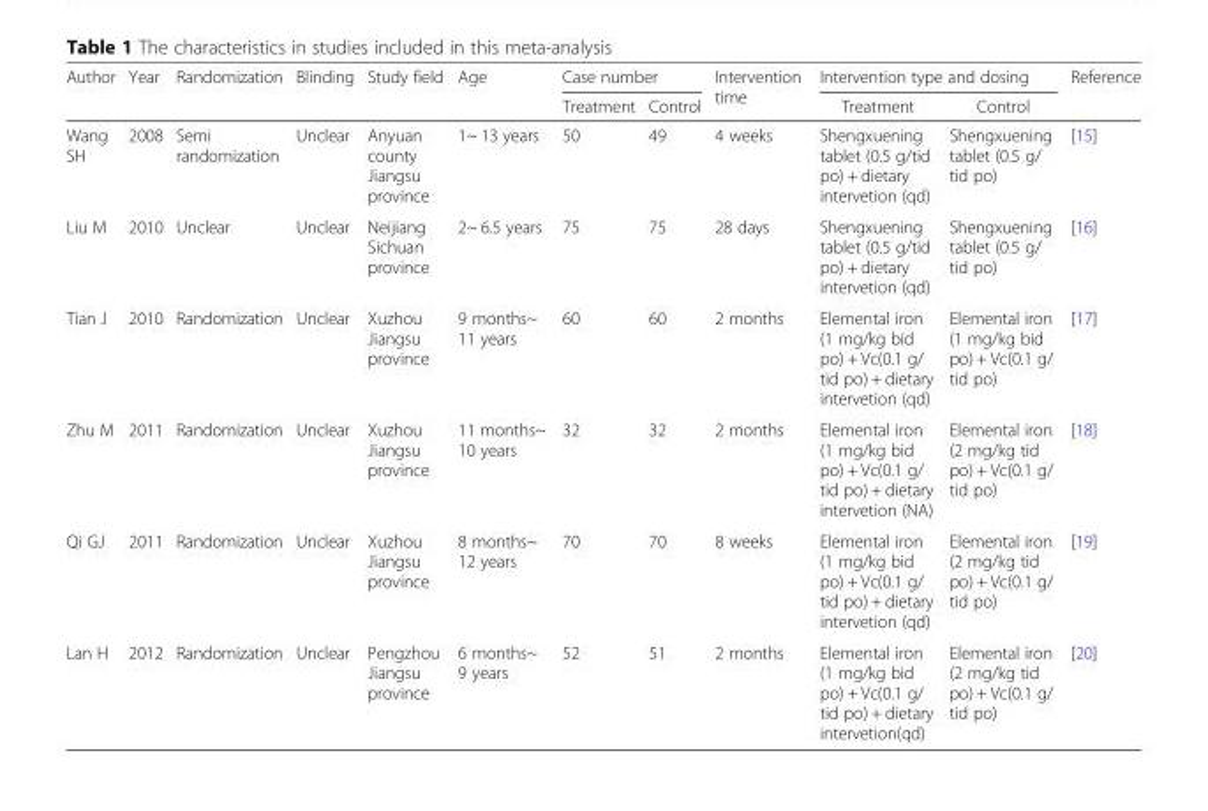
<table><thead><tr><td rowspan="2">Author</td><td rowspan="2">Year</td><td rowspan="2">Randomization</td><td rowspan="2">Blinding</td><td rowspan="2">Study field</td><td rowspan="2">Age</td><td colspan="2">Case number</td><td rowspan="2">Intervention time</td><td colspan="2">Intervention type and dosing</td><td rowspan="2">Reference</td></tr><tr><td>Treatment</td><td>Control</td><td>Treatment</td><td>Control</td></tr></thead><tbody><tr><td>Wang SH</td><td>2008</td><td>Semi randomization</td><td>Unclear</td><td>Anyuan county Jiangsu province</td><td>1~ 13 years</td><td>50</td><td>49</td><td>4 weeks</td><td>Shengxuening tablet (0.5 g/tid po) + dietary intervetion (qd)</td><td>Shengxuening tablet (0.5 g/ tid po)</td><td>[15]</td></tr><tr><td>Liu M</td><td>2010</td><td>Unclear</td><td>Unclear</td><td>Neijiang Sichuan province</td><td>2~ 6.5 years</td><td>75</td><td>75</td><td>28 days</td><td>Shengxuening tablet (0.5 g/tid po) + dietary intervetion (qd)</td><td>Shengxuening tablet (0.5 g/ tid po)</td><td>[16]</td></tr><tr><td>Tian J</td><td>2010</td><td>Randomization</td><td>Unclear</td><td>Xuzhou Jiangsu province</td><td>9 months~ 11 years</td><td>60</td><td>60</td><td>2 months</td><td>Elemental iron (1 mg/kg bid po) + Vc(0.1 g/ tid po) + dietary intervetion (qd)</td><td>Elemental iron (1 mg/kg bid po) + Vc(0.1 g/ tid po)</td><td>[17]</td></tr><tr><td>Zhu M</td><td>2011</td><td>Randomization</td><td>Unclear</td><td>Xuzhou Jiangsu province</td><td>11 months~ 10 years</td><td>32</td><td>32</td><td>2 months</td><td>Elemental iron (1 mg/kg bid po) + Vc(0.1 g/ tid po) + dietary intervetion (NA)</td><td>Elemental iron (2 mg/kg tid po) + Vc(0.1 g/ tid po)</td><td>[18]</td></tr><tr><td>Qi GJ</td><td>2011</td><td>Randomization</td><td>Unclear</td><td>Xuzhou Jiangsu province</td><td>8 months~ 12 years</td><td>70</td><td>70</td><td>8 weeks</td><td>Elemental iron (1 mg/kg bid po) + Vc(0.1 g/ tid po) + dietary intervetion (qd)</td><td>Elemental iron (2 mg/kg tid po) + Vc(0.1 g/ tid po)</td><td>[19]</td></tr><tr><td>Lan H</td><td>2012</td><td>Randomization</td><td>Unclear</td><td>Pengzhou Jiangsu province</td><td>6 months~ 9 years</td><td>52</td><td>51</td><td>2 months</td><td>Elemental iron (1 mg/kg bid po) + Vc(0.1 g/ tid po) + dietary intervetion(qd)</td><td>Elemental iron (2 mg/kg tid po) + Vc(0.1 g/ tid po)</td><td>[20]</td></tr></tbody></table>